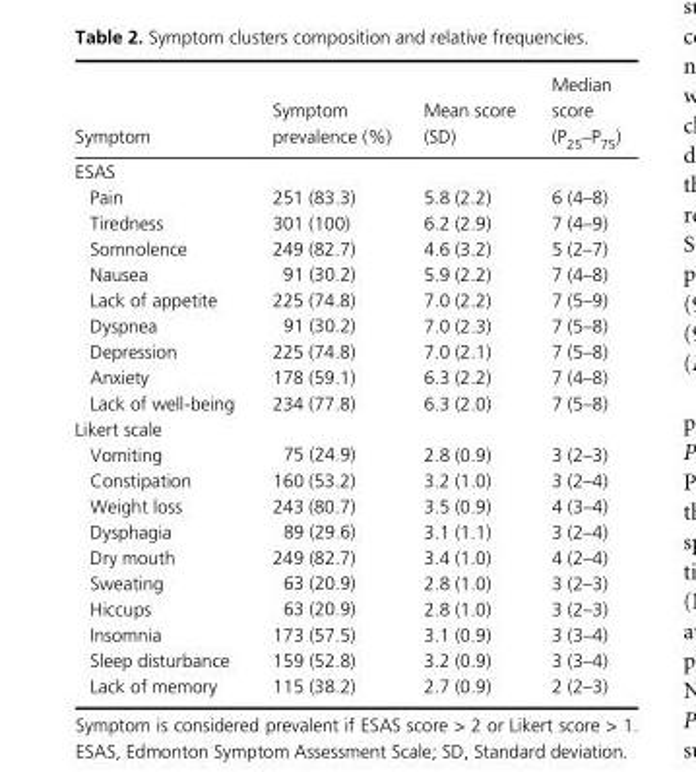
<table><thead><tr><td>Symptom</td><td>Symptom prevalence (%)</td><td>Mean score (SD)</td><td>Median score (P<sub>25</sub>–P<sub>75</sub>)</td></tr></thead><tbody><tr><td colspan="4">ESAS</td></tr><tr><td>Pain</td><td>251 (83.3)</td><td>5.8 (2.2)</td><td>6 (4–8)</td></tr><tr><td>Tiredness</td><td>301 (100)</td><td>6.2 (2.9)</td><td>7 (4–9)</td></tr><tr><td>Somnolence</td><td>249 (82.7)</td><td>4.6 (3.2)</td><td>5 (2–7)</td></tr><tr><td>Nausea</td><td>91 (30.2)</td><td>5.9 (2.2)</td><td>7 (4–8)</td></tr><tr><td>Lack of appetite</td><td>225 (74.8)</td><td>7.0 (2.2)</td><td>7 (5–9)</td></tr><tr><td>Dyspnea</td><td>91 (30.2)</td><td>7.0 (2.3)</td><td>7 (5–8)</td></tr><tr><td>Depression</td><td>225 (74.8)</td><td>7.0 (2.1)</td><td>7 (5–8)</td></tr><tr><td>Anxiety</td><td>178 (59.1)</td><td>6.3 (2.2)</td><td>7 (4–8)</td></tr><tr><td>Lack of well- being</td><td>234 (77.8)</td><td>6.3 (2.0)</td><td>7 (5–8)</td></tr><tr><td colspan="4">Likert scale</td></tr><tr><td>Vomiting</td><td>75 (24.9)</td><td>2.8 (0.9)</td><td>3 (2–3)</td></tr><tr><td>Constipation</td><td>160 (53.2)</td><td>3.2 (1.0)</td><td>3 (2–4)</td></tr><tr><td>Weight loss</td><td>243 (80.7)</td><td>3.5 (0.9)</td><td>4 (3–4)</td></tr><tr><td>Dysphagia</td><td>89 (29.6)</td><td>3.1 (1.1)</td><td>3 (2–4)</td></tr><tr><td>Dry mouth</td><td>249 (82.7)</td><td>3.4 (1.0)</td><td>4 (2–4)</td></tr><tr><td>Sweating</td><td>63 (20.9)</td><td>2.8 (1.0)</td><td>3 (2–3)</td></tr><tr><td>Hiccups</td><td>63 (20.9)</td><td>2.8 (1.0)</td><td>3 (2–3)</td></tr><tr><td>Insomnia</td><td>173 (57.5)</td><td>3.1 (0.9)</td><td>3 (3–4)</td></tr><tr><td>Sleep disturbance</td><td>159 (52.8)</td><td>3.2 (0.9)</td><td>3 (3–4)</td></tr><tr><td>Lack of memory</td><td>115 (38.2)</td><td>2.7 (0.9)</td><td>2 (2–3)</td></tr></tbody></table>